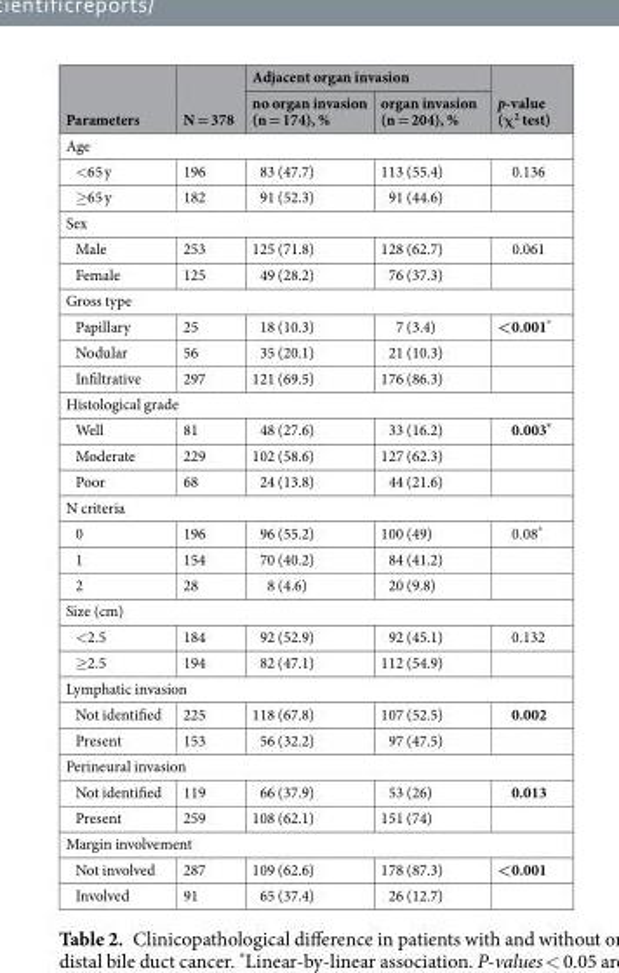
<table><thead><tr><td rowspan="2">Parameters</td><td rowspan="2">N = 378</td><td colspan="2">Adjacent organ invasion</td><td rowspan="2">p-value (χ<sup>2</sup> test)</td></tr><tr><td>no organ invasion (n = 174), %</td><td>organ invasion (n = 204), %</td></tr></thead><tbody><tr><td colspan="5">Age</td></tr><tr><td>&lt;65 y</td><td>196</td><td>83 (47.7)</td><td>113 (55.4)</td><td>0.136</td></tr><tr><td>≥65 y</td><td>182</td><td>91 (52.3)</td><td>91 (44.6)</td><td></td></tr><tr><td colspan="5">Sex</td></tr><tr><td>Male</td><td>253</td><td>125 (71.8)</td><td>128 (62.7)</td><td>0.061</td></tr><tr><td>Female</td><td>125</td><td>49 (28.2)</td><td>76 (37.3)</td><td></td></tr><tr><td colspan="5">Gross type</td></tr><tr><td>Papillary</td><td>25</td><td>18 (10.3)</td><td>7 (3.4)</td><td>&lt;0.001*</td></tr><tr><td>Nodular</td><td>56</td><td>35 (20.1)</td><td>21 (10.3)</td><td></td></tr><tr><td>Infiltrative</td><td>297</td><td>121 (69.5)</td><td>176 (86.3)</td><td></td></tr><tr><td colspan="5">Histological grade</td></tr><tr><td>Well</td><td>81</td><td>48 (27.6)</td><td>33 (16.2)</td><td>0.003*</td></tr><tr><td>Moderate</td><td>229</td><td>102 (58.6)</td><td>127 (62.3)</td><td></td></tr><tr><td>Poor</td><td>68</td><td>24 (13.8)</td><td>44 (21.6)</td><td></td></tr><tr><td colspan="5">N criteria</td></tr><tr><td>0</td><td>196</td><td>96 (55.2)</td><td>100 (49)</td><td>0.08*</td></tr><tr><td>1</td><td>154</td><td>70 (40.2)</td><td>84 (41.2)</td><td></td></tr><tr><td>2</td><td>28</td><td>8 (4.6)</td><td>20 (9.8)</td><td></td></tr><tr><td colspan="5">Size (cm)</td></tr><tr><td>&lt;2.5</td><td>184</td><td>92 (52.9)</td><td>92 (45.1)</td><td>0.132</td></tr><tr><td>≥2.5</td><td>194</td><td>82 (47.1)</td><td>112 (54.9)</td><td></td></tr><tr><td colspan="5">Lymphatic invasion</td></tr><tr><td>Not identified</td><td>225</td><td>118 (67.8)</td><td>107 (52.5)</td><td>0.002</td></tr><tr><td>Present</td><td>153</td><td>56 (32.2)</td><td>97 (47.5)</td><td></td></tr><tr><td colspan="5">Perineural invasion</td></tr><tr><td>Not identified</td><td>119</td><td>66 (37.9)</td><td>53 (26)</td><td>0.013</td></tr><tr><td>Present</td><td>259</td><td>108 (62.1)</td><td>151 (74)</td><td></td></tr><tr><td colspan="5">Margin involvement</td></tr><tr><td>Not involved</td><td>287</td><td>109 (62.6)</td><td>178 (87.3)</td><td>&lt;0.001</td></tr><tr><td>Involved</td><td>91</td><td>65 (37.4)</td><td>26 (12.7)</td><td></td></tr></tbody></table>